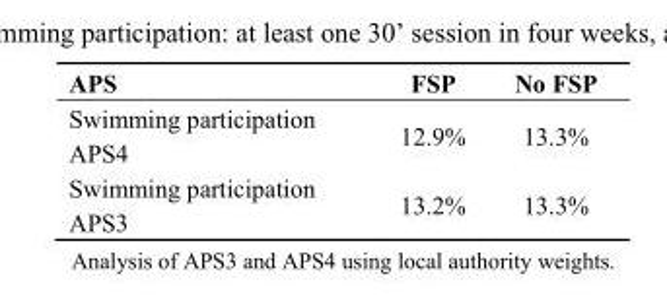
<table><thead><tr><td>APS</td><td>FSP</td><td>No FSP</td></tr></thead><tbody><tr><td>Swimming participation APS4</td><td>12.9%</td><td>13.3%</td></tr><tr><td>Swimming participation APS3</td><td>13.2%</td><td>13.3%</td></tr></tbody></table>